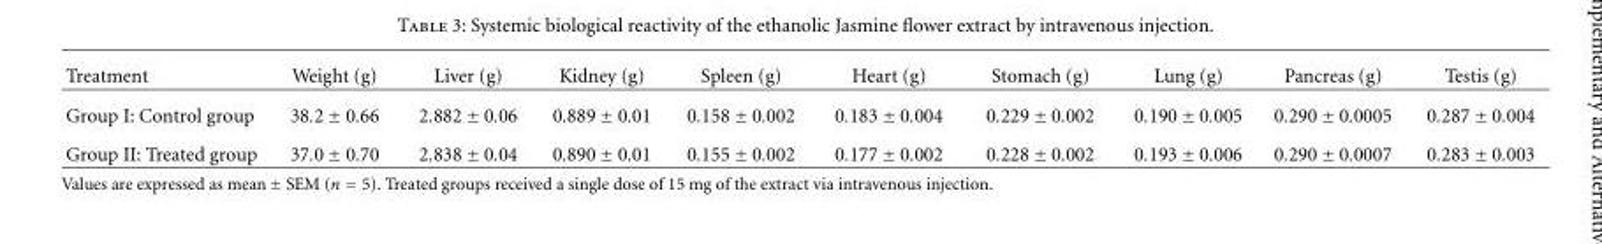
<table><thead><tr><td>Treatment</td><td>Weight (g)</td><td>Liver (g)</td><td>Kidney (g)</td><td>Spleen (g)</td><td>Heart (g)</td><td>Stomach (g)</td><td>Lung (g)</td><td>Pancreas (g)</td><td>Testis (g)</td></tr></thead><tbody><tr><td>Group I: Control group</td><td>38.2 ± 0.66</td><td>2.882 ± 0.06</td><td>0.889 ± 0.01</td><td>0.158 ± 0.002</td><td>0.183 ± 0.004</td><td>0.229 ± 0.002</td><td>0.190 ± 0.005</td><td>0.290 ± 0.0005</td><td>0.287 ± 0.004</td></tr><tr><td>Group II: Treated group</td><td>37.0 ± 0.70</td><td>2.838 ± 0.04</td><td>0.890 ± 0.01</td><td>0.155 ± 0.002</td><td>0.177 ± 0.002</td><td>0.228 ± 0.002</td><td>0.193 ± 0.006</td><td>0.290 ± 0.0007</td><td>0.283 ± 0.003</td></tr></tbody></table>